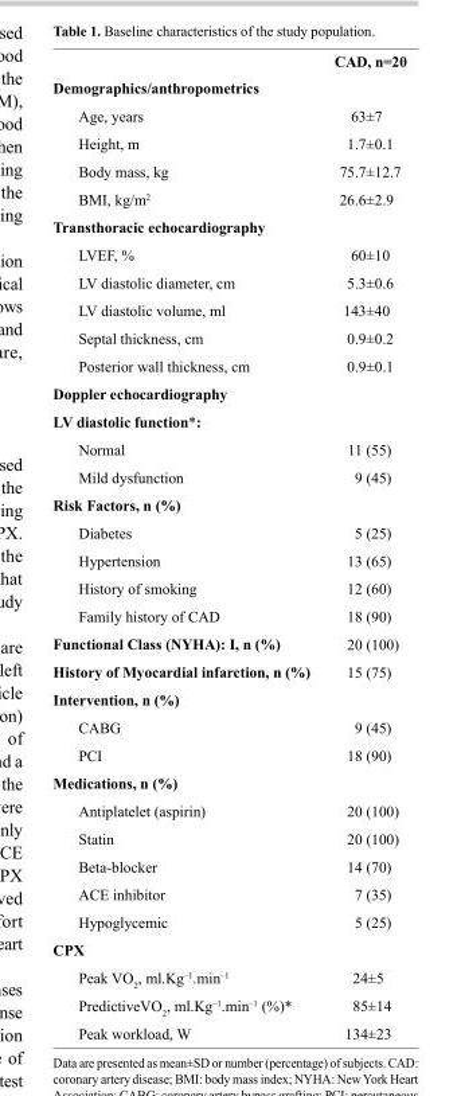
<table><thead><tr><td></td><td>CAD, n=20</td></tr></thead><tbody><tr><td colspan="2">Demographics/anthropometrics</td></tr><tr><td>Age, years</td><td>63±7</td></tr><tr><td>Height, m</td><td>1.7±0.1</td></tr><tr><td>Body mass, kg</td><td>75.7±12.7</td></tr><tr><td>BMI, kg/m<sup>2</sup></td><td>26.6±2.9</td></tr><tr><td colspan="2">Transthoracic echocardiography</td></tr><tr><td>LVEF, %</td><td>60±10</td></tr><tr><td>LV diastolic diameter, cm</td><td>5.3±0.6</td></tr><tr><td>LV diastolic volume, ml</td><td>143±40</td></tr><tr><td>Septal thickness, cm</td><td>0.9±0.2</td></tr><tr><td>Posterior wall thickness, cm</td><td>0.9±0.1</td></tr><tr><td colspan="2">Doppler echocardiography</td></tr><tr><td colspan="2">LV diastolic function*:</td></tr><tr><td>Normal</td><td>11 (55)</td></tr><tr><td>Mild dysfunction</td><td>9 (45)</td></tr><tr><td colspan="2">Risk Factors, n (%)</td></tr><tr><td>Diabetes</td><td>5 (25)</td></tr><tr><td>Hypertension</td><td>13 (65)</td></tr><tr><td>History of smoking</td><td>12 (60)</td></tr><tr><td>Family history of CAD</td><td>18 (90)</td></tr><tr><td>Functional Class (NYHA): I, n (%)</td><td>20 (100)</td></tr><tr><td>History of Myocardial infarction, n (%)</td><td>15 (75)</td></tr><tr><td colspan="2">Intervention, n (%)</td></tr><tr><td>CABG</td><td>9 (45)</td></tr><tr><td>PCI</td><td>18 (90)</td></tr><tr><td colspan="2">Medications, n (%)</td></tr><tr><td>Antiplatelet (aspirin)</td><td>20 (100)</td></tr><tr><td>Statin</td><td>20 (100)</td></tr><tr><td>Beta‑blocker</td><td>14 (70)</td></tr><tr><td>ACE inhibitor</td><td>7 (35)</td></tr><tr><td>Hypoglycemic</td><td>5 (25)</td></tr><tr><td colspan="2">CPX</td></tr><tr><td>Peak VO<sub>2</sub>, ml.Kg<sup>–1</sup>.min<sup>–1</sup></td><td>24±5</td></tr><tr><td>PredictiveVO<sub>2</sub>, ml.Kg<sup>–1</sup>.min<sup>–1</sup> (%)*</td><td>85±14</td></tr><tr><td>Peak workload, W</td><td>134±23</td></tr></tbody></table>